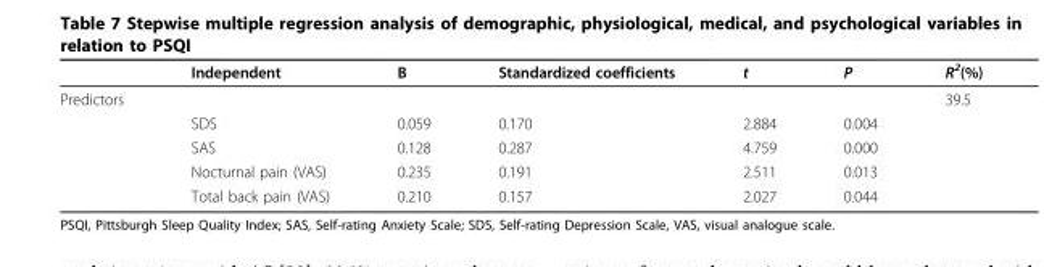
<table><thead><tr><td></td><td>Independent</td><td>B</td><td>Standardized coefficients</td><td>t</td><td>P</td><td>R<sup>2</sup>(%)</td></tr></thead><tbody><tr><td rowspan="5">Predictors</td><td></td><td></td><td></td><td></td><td></td><td>39.5</td></tr><tr><td>SDS</td><td>0.059</td><td>0.170</td><td>2.884</td><td>0.004</td><td></td></tr><tr><td>SAS</td><td>0.128</td><td>0.287</td><td>4.759</td><td>0.000</td><td></td></tr><tr><td>Nocturnal pain (VAS)</td><td>0.235</td><td>0.191</td><td>2.511</td><td>0.013</td><td></td></tr><tr><td>Total back pain (VAS)</td><td>0.210</td><td>0.157</td><td>2.027</td><td>0.044</td><td></td></tr></tbody></table>